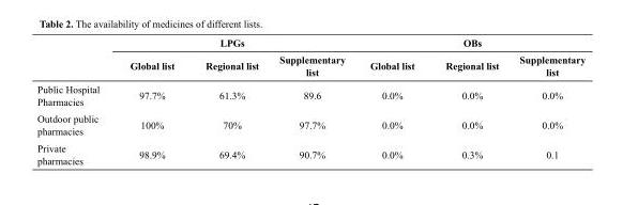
<table><thead><tr><td rowspan="2"></td><td colspan="3">LPGs</td><td colspan="3">OBs</td></tr><tr><td>Global list</td><td>Regional list</td><td>Supplementary list</td><td>Global list</td><td>Regional list</td><td>Supplementary list</td></tr></thead><tbody><tr><td>Public Hospital Pharmacies</td><td>97.7%</td><td>61.3%</td><td>89.6</td><td>0.0%</td><td>0.0%</td><td>0.0%</td></tr><tr><td>Outdoor public pharmacies</td><td>100%</td><td>70%</td><td>97.7%</td><td>0.0%</td><td>0.0%</td><td>0.0%</td></tr><tr><td>Private pharmacies</td><td>98.9%</td><td>69.4%</td><td>90.7%</td><td>0.0%</td><td>0.3%</td><td>0.1</td></tr></tbody></table>